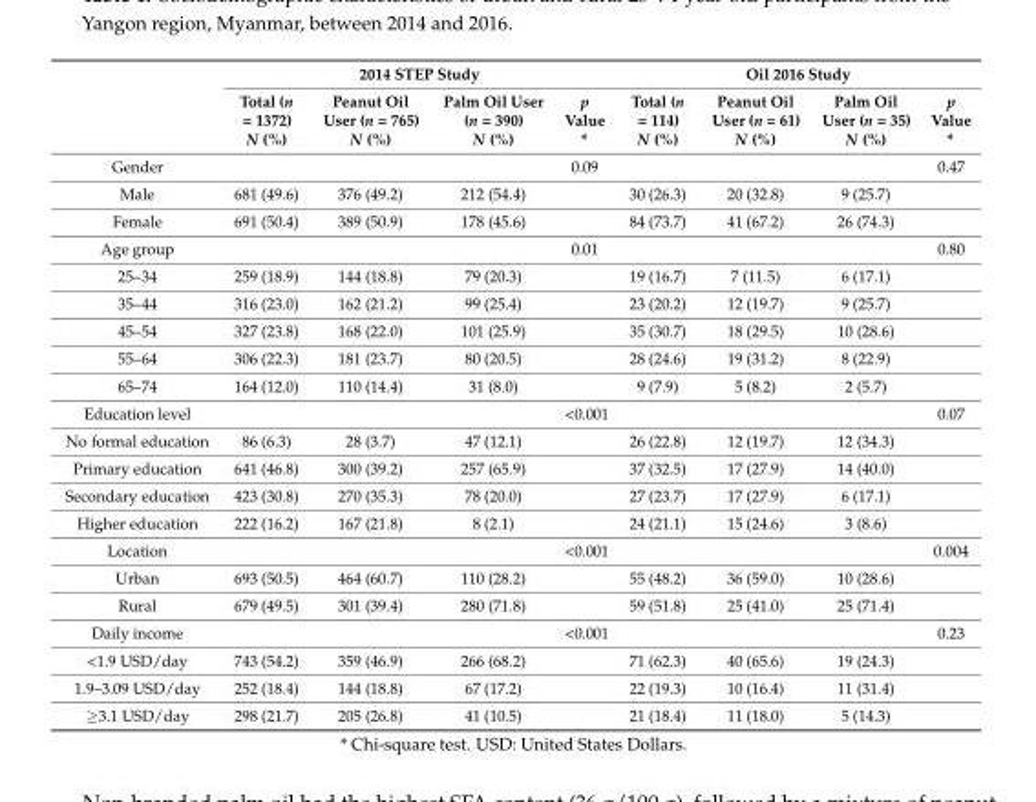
<table><thead><tr><td rowspan="2"></td><td colspan="4">2014 STEP Study</td><td colspan="4">Oil 2016 Study</td></tr><tr><td>Total (n = 1372) N (%)</td><td>Peanut Oil User (n = 765) N (%)</td><td>Palm Oil User (n = 390) N (%)</td><td>p Value *</td><td>Total (n = 114) N (%)</td><td>Peanut Oil User (n = 61) N (%)</td><td>Palm Oil User (n = 35) N (%)</td><td>p Value *</td></tr></thead><tbody><tr><td>Gender</td><td></td><td></td><td></td><td>0.09</td><td></td><td></td><td></td><td>0.47</td></tr><tr><td>Male</td><td>681 (49.6)</td><td>376 (49.2)</td><td>212 (54.4)</td><td></td><td>30 (26.3)</td><td>20 (32.8)</td><td>9 (25.7)</td><td></td></tr><tr><td>Female</td><td>691 (50.4)</td><td>389 (50.9)</td><td>178 (45.6)</td><td></td><td>84 (73.7)</td><td>41 (67.2)</td><td>26 (74.3)</td><td></td></tr><tr><td>Age group</td><td></td><td></td><td></td><td>0.01</td><td></td><td></td><td></td><td>0.80</td></tr><tr><td>25–34</td><td>259 (18.9)</td><td>144 (18.8)</td><td>79 (20.3)</td><td></td><td>19 (16.7)</td><td>7 (11.5)</td><td>6 (17.1)</td><td></td></tr><tr><td>35–44</td><td>316 (23.0)</td><td>162 (21.2)</td><td>99 (25.4)</td><td></td><td>23 (20.2)</td><td>12 (19.7)</td><td>9 (25.7)</td><td></td></tr><tr><td>45–54</td><td>327 (23.8)</td><td>168 (22.0)</td><td>101 (25.9)</td><td></td><td>35 (30.7)</td><td>18 (29.5)</td><td>10 (28.6)</td><td></td></tr><tr><td>55–64</td><td>306 (22.3)</td><td>181 (23.7)</td><td>80 (20.5)</td><td></td><td>28 (24.6)</td><td>19 (31.2)</td><td>8 (22.9)</td><td></td></tr><tr><td>65–74</td><td>164 (12.0)</td><td>110 (14.4)</td><td>31 (8.0)</td><td></td><td>9 (7.9)</td><td>5 (8.2)</td><td>2 (5.7)</td><td></td></tr><tr><td>Education level</td><td></td><td></td><td></td><td>&lt;0.001</td><td></td><td></td><td></td><td>0.07</td></tr><tr><td>No formal education</td><td>86 (6.3)</td><td>28 (3.7)</td><td>47 (12.1)</td><td></td><td>26 (22.8)</td><td>12 (19.7)</td><td>12 (34.3)</td><td></td></tr><tr><td>Primary education</td><td>641 (46.8)</td><td>300 (39.2)</td><td>257 (65.9)</td><td></td><td>37 (32.5)</td><td>17 (27.9)</td><td>14 (40.0)</td><td></td></tr><tr><td>Secondary education</td><td>423 (30.8)</td><td>270 (35.3)</td><td>78 (20.0)</td><td></td><td>27 (23.7)</td><td>17 (27.9)</td><td>6 (17.1)</td><td></td></tr><tr><td>Higher education</td><td>222 (16.2)</td><td>167 (21.8)</td><td>8 (2.1)</td><td></td><td>24 (21.1)</td><td>15 (24.6)</td><td>3 (8.6)</td><td></td></tr><tr><td>Location</td><td></td><td></td><td></td><td>&lt;0.001</td><td></td><td></td><td></td><td>0.004</td></tr><tr><td>Urban</td><td>693 (50.5)</td><td>464 (60.7)</td><td>110 (28.2)</td><td></td><td>55 (48.2)</td><td>36 (59.0)</td><td>10 (28.6)</td><td></td></tr><tr><td>Rural</td><td>679 (49.5)</td><td>301 (39.4)</td><td>280 (71.8)</td><td></td><td>59 (51.8)</td><td>25 (41.0)</td><td>25 (71.4)</td><td></td></tr><tr><td>Daily income</td><td></td><td></td><td></td><td>&lt;0.001</td><td></td><td></td><td></td><td>0.23</td></tr><tr><td>&lt;1.9 USD/day</td><td>743 (54.2)</td><td>359 (46.9)</td><td>266 (68.2)</td><td></td><td>71 (62.3)</td><td>40 (65.6)</td><td>19 (24.3)</td><td></td></tr><tr><td>1.9–3.09 USD/day</td><td>252 (18.4)</td><td>144 (18.8)</td><td>67 (17.2)</td><td></td><td>22 (19.3)</td><td>10 (16.4)</td><td>11 (31.4)</td><td></td></tr><tr><td>≥3.1 USD/day</td><td>298 (21.7)</td><td>205 (26.8)</td><td>41 (10.5)</td><td></td><td>21 (18.4)</td><td>11 (18.0)</td><td>5 (14.3)</td><td></td></tr></tbody></table>